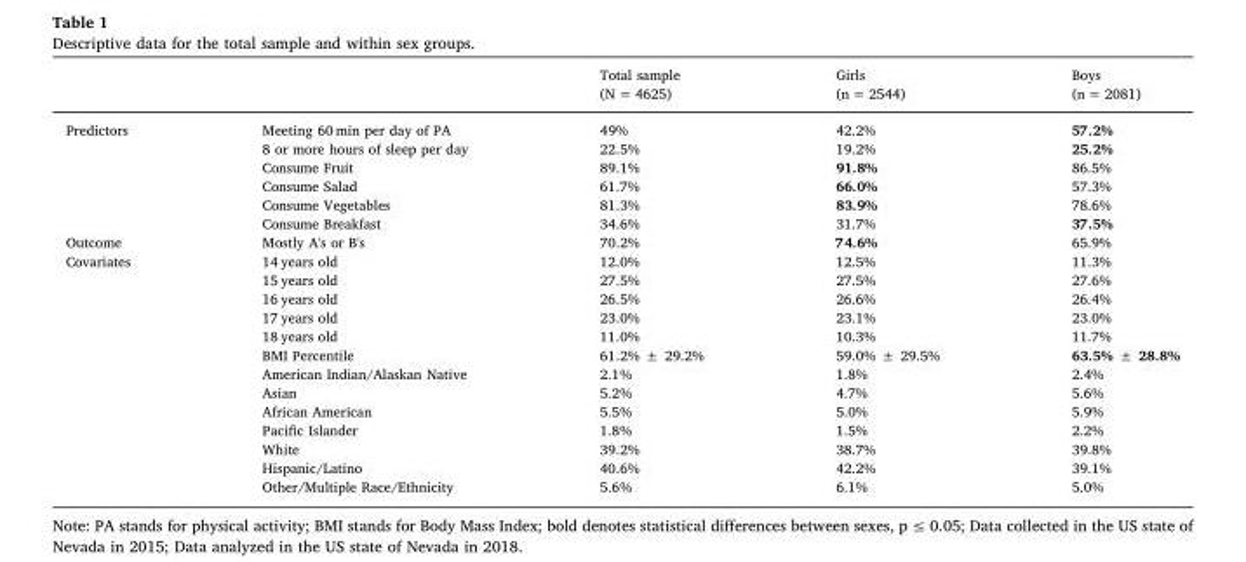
<table><thead><tr><td></td><td></td><td>Total sample (N = 4625)</td><td>Girls (n = 2544)</td><td>Boys (n = 2081)</td></tr></thead><tbody><tr><td rowspan="6">Predictors</td><td>Meeting 60 min per day of PA</td><td>49%</td><td>42.2%</td><td>57.2%</td></tr><tr><td>8 or more hours of sleep per day</td><td>22.5%</td><td>19.2%</td><td>25.2%</td></tr><tr><td>Consume Fruit</td><td>89.1%</td><td>91.8%</td><td>86.5%</td></tr><tr><td>Consume Salad</td><td>61.7%</td><td>66.0%</td><td>57.3%</td></tr><tr><td>Consume Vegetables</td><td>81.3%</td><td>83.9%</td><td>78.6%</td></tr><tr><td>Consume Breakfast</td><td>34.6%</td><td>31.7%</td><td>37.5%</td></tr><tr><td>Outcome</td><td>Mostly A&#x27;s or B&#x27;s</td><td>70.2%</td><td>74.6%</td><td>65.9%</td></tr><tr><td rowspan="13">Covariates</td><td>14 years old</td><td>12.0%</td><td>12.5%</td><td>11.3%</td></tr><tr><td>15 years old</td><td>27.5%</td><td>27.5%</td><td>27.6%</td></tr><tr><td>16 years old</td><td>26.5%</td><td>26.6%</td><td>26.4%</td></tr><tr><td>17 years old</td><td>23.0%</td><td>23.1%</td><td>23.0%</td></tr><tr><td>18 years old</td><td>11.0%</td><td>10.3%</td><td>11.7%</td></tr><tr><td>BMI Percentile</td><td>61.2% ± 29.2%</td><td>59.0% ± 29.5%</td><td>63.5% ± 28.8%</td></tr><tr><td>American Indian/Alaskan Native</td><td>2.1%</td><td>1.8%</td><td>2.4%</td></tr><tr><td>Asian</td><td>5.2%</td><td>4.7%</td><td>5.6%</td></tr><tr><td>African American</td><td>5.5%</td><td>5.0%</td><td>5.9%</td></tr><tr><td>Pacific Islander</td><td>1.8%</td><td>1.5%</td><td>2.2%</td></tr><tr><td>White</td><td>39.2%</td><td>38.7%</td><td>39.8%</td></tr><tr><td>Hispanic/Latino</td><td>40.6%</td><td>42.2%</td><td>39.1%</td></tr><tr><td>Other/Multiple Race/Ethnicity</td><td>5.6%</td><td>6.1%</td><td>5.0%</td></tr></tbody></table>